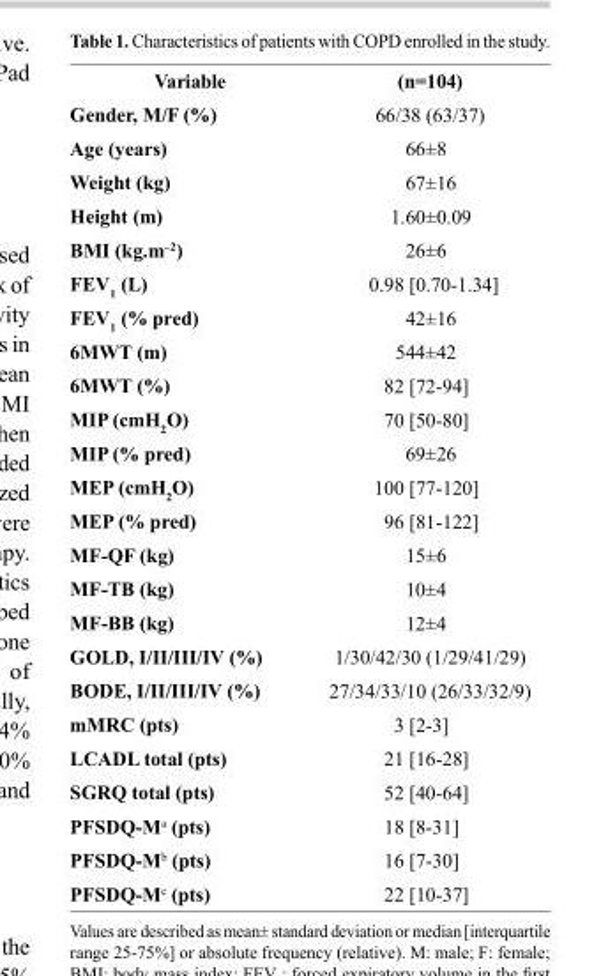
<table><thead><tr><td>Variable</td><td>(n=104)</td></tr></thead><tbody><tr><td>Gender, M/F (%)</td><td>66/38 (63/37)</td></tr><tr><td>Age (years)</td><td>66±8</td></tr><tr><td>Weight (kg)</td><td>67±16</td></tr><tr><td>Height (m)</td><td>1.60±0.09</td></tr><tr><td>BMI (kg.m<sup>–2</sup>)</td><td>26±6</td></tr><tr><td>FEV<sub>1</sub> (L)</td><td>0.98 [0.70-1.34]</td></tr><tr><td>FEV<sub>1</sub> (% pred)</td><td>42±16</td></tr><tr><td>6MWT (m)</td><td>544±42</td></tr><tr><td>6MWT (%)</td><td>82 [72-94]</td></tr><tr><td>MIP (cmH<sub>2</sub>O)</td><td>70 [50-80]</td></tr><tr><td>MIP (% pred)</td><td>69±26</td></tr><tr><td>MEP (cmH<sub>2</sub>O)</td><td>100 [77-120]</td></tr><tr><td>MEP (% pred)</td><td>96 [81-122]</td></tr><tr><td>MF-QF (kg)</td><td>15±6</td></tr><tr><td>MF-TB (kg)</td><td>10±4</td></tr><tr><td>MF-BB (kg)</td><td>12±4</td></tr><tr><td>GOLD, I/II/III/IV (%)</td><td>1/30/42/30 (1/29/41/29)</td></tr><tr><td>BODE, I/II/III/IV (%)</td><td>27/34/33/10 (26/33/32/9)</td></tr><tr><td>mMRC (pts)</td><td>3 [2-3]</td></tr><tr><td>LCADL total (pts)</td><td>21 [16-28]</td></tr><tr><td>SGRQ total (pts)</td><td>52 [40-64]</td></tr><tr><td>PFSDQ-Ma (pts)</td><td>18 [8-31]</td></tr><tr><td>PFSDQ-Mb (pts)</td><td>16 [7-30]</td></tr><tr><td>PFSDQ-Mc (pts)</td><td>22 [10-37]</td></tr></tbody></table>